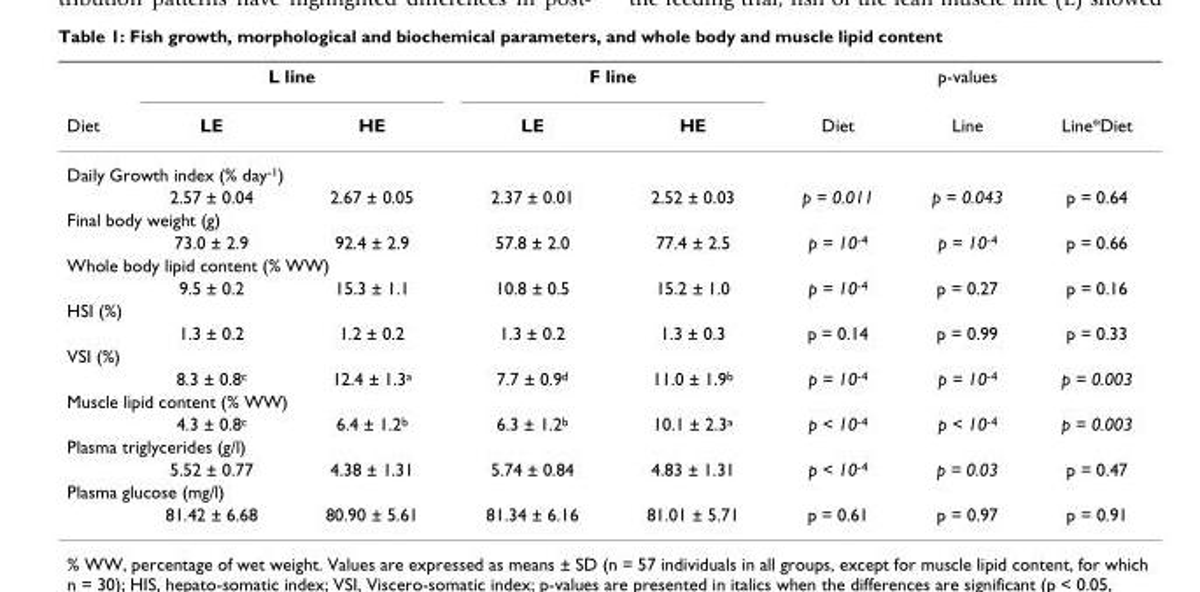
<table><thead><tr><td rowspan="2">Diet</td><td colspan="2">L line</td><td colspan="2">F line</td><td colspan="3">p-values</td></tr><tr><td>LE</td><td>HE</td><td>LE</td><td>HE</td><td>Diet</td><td>Line</td><td>Line*Diet</td></tr></thead><tbody><tr><td colspan="8">Daily Growth index (% day<sup>-1</sup>)</td></tr><tr><td></td><td>2.57 ± 0.04</td><td>2.67 ± 0.05</td><td>2.37 ± 0.01</td><td>2.52 ± 0.03</td><td>p = 0.011</td><td>p = 0.043</td><td>p = 0.64</td></tr><tr><td colspan="8">Final body weight (g)</td></tr><tr><td></td><td>73.0 ± 2.9</td><td>92.4 ± 2.9</td><td>57.8 ± 2.0</td><td>77.4 ± 2.5</td><td>p = 10<sup>-4</sup></td><td>p = 10<sup>-4</sup></td><td>p = 0.66</td></tr><tr><td colspan="8">Whole body lipid content (% WW)</td></tr><tr><td></td><td>9.5 ± 0.2</td><td>15.3 ± 1.1</td><td>10.8 ± 0.5</td><td>15.2 ± 1.0</td><td>p = 10<sup>-4</sup></td><td>p = 0.27</td><td>p = 0.16</td></tr><tr><td colspan="8">HSI (%)</td></tr><tr><td></td><td>1.3 ± 0.2</td><td>1.2 ± 0.2</td><td>1.3 ± 0.2</td><td>1.3 ± 0.3</td><td>p = 0.14</td><td>p = 0.99</td><td>p = 0.33</td></tr><tr><td colspan="8">VSI (%)</td></tr><tr><td></td><td>8.3 ± 0.8<sup>c</sup></td><td>12.4 ± 1.3<sup>a</sup></td><td>7.7 ± 0.9<sup>d</sup></td><td>11.0 ± 1.9<sup>b</sup></td><td>p = 10<sup>-4</sup></td><td>p = 10<sup>-4</sup></td><td>p = 0.003</td></tr><tr><td colspan="8">Muscle lipid content (% WW)</td></tr><tr><td></td><td>4.3 ± 0.8<sup>c</sup></td><td>6.4 ± 1.2<sup>b</sup></td><td>6.3 ± 1.2<sup>b</sup></td><td>10.1 ± 2.3<sup>a</sup></td><td>p &lt; 10<sup>-4</sup></td><td>p &lt; 10<sup>-4</sup></td><td>p = 0.003</td></tr><tr><td colspan="8">Plasma triglycerides (g/l)</td></tr><tr><td></td><td>5.52 ± 0.77</td><td>4.38 ± 1.31</td><td>5.74 ± 0.84</td><td>4.83 ± 1.31</td><td>p &lt; 10<sup>-4</sup></td><td>p = 0.03</td><td>p = 0.47</td></tr><tr><td colspan="8">Plasma glucose (mg/l)</td></tr><tr><td></td><td>81.42 ± 6.68</td><td>80.90 ± 5.61</td><td>81.34 ± 6.16</td><td>81.01 ± 5.71</td><td>p = 0.61</td><td>p = 0.97</td><td>p = 0.91</td></tr></tbody></table>